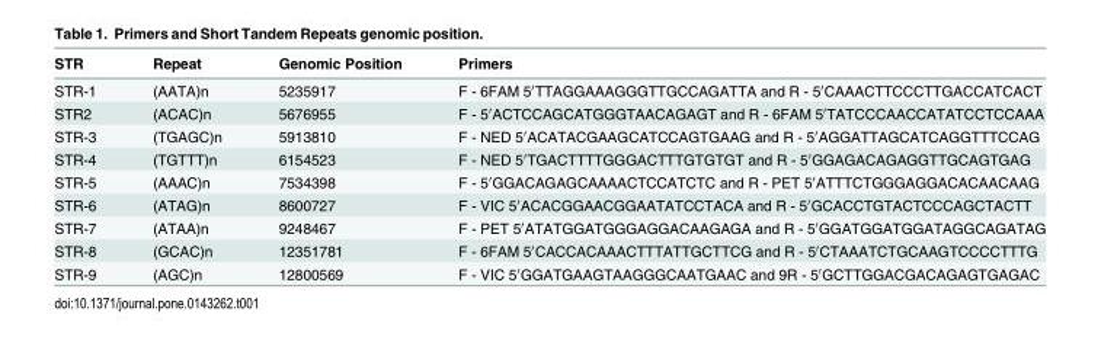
<table><thead><tr><td>STR</td><td>Repeat</td><td>Genomic Position</td><td>Primers</td></tr></thead><tbody><tr><td>STR-1</td><td>(AATA)n</td><td>5235917</td><td>F - 6FAM 5′TTAGGAAAGGGTTGCCAGATTA and R - 5′CAAACTTCCCTTGACCATCACT</td></tr><tr><td>STR2</td><td>(ACAC)n</td><td>5676955</td><td>F - 5′ACTCCAGCATGGGTAACAGAGT and R - 6FAM 5′TATCCCAACCATATCCTCCAAA</td></tr><tr><td>STR-3</td><td>(TGAGC)n</td><td>5913810</td><td>F - NED 5′ACATACGAAGCATCCAGTGAAG and R - 5′AGGATTAGCATCAGGTTTCCAG</td></tr><tr><td>STR-4</td><td>(TGTTT)n</td><td>6154523</td><td>F - NED 5′TGACTTTTGGGACTTTGTGTGT and R - 5′GGAGACAGAGGTTGCAGTGAG</td></tr><tr><td>STR-5</td><td>(AAAC)n</td><td>7534398</td><td>F - 5′GGACAGAGCAAAACTCCATCTC and R - PET 5′ATTTCTGGGAGGACACAACAAG</td></tr><tr><td>STR-6</td><td>(ATAG)n</td><td>8600727</td><td>F - VIC 5′ACACGGAACGGAATATCCTACA and R - 5′GCACCTGTACTCCCAGCTACTT</td></tr><tr><td>STR-7</td><td>(ATAA)n</td><td>9248467</td><td>F - PET 5′ATATGGATGGGAGGACAAGAGA and R - 5′GGATGGATGGATAGGCAGATAG</td></tr><tr><td>STR-8</td><td>(GCAC)n</td><td>12351781</td><td>F - 6FAM 5′CACCACAAACTTTATTGCTTCG and R - 5′CTAAATCTGCAAGTCCCCTTTG</td></tr><tr><td>STR-9</td><td>(AGC)n</td><td>12800569</td><td>F - VIC 5′GGATGAAGTAAGGGCAATGAAC and 9R - 5′GCTTGGACGACAGAGTGAGAC</td></tr></tbody></table>